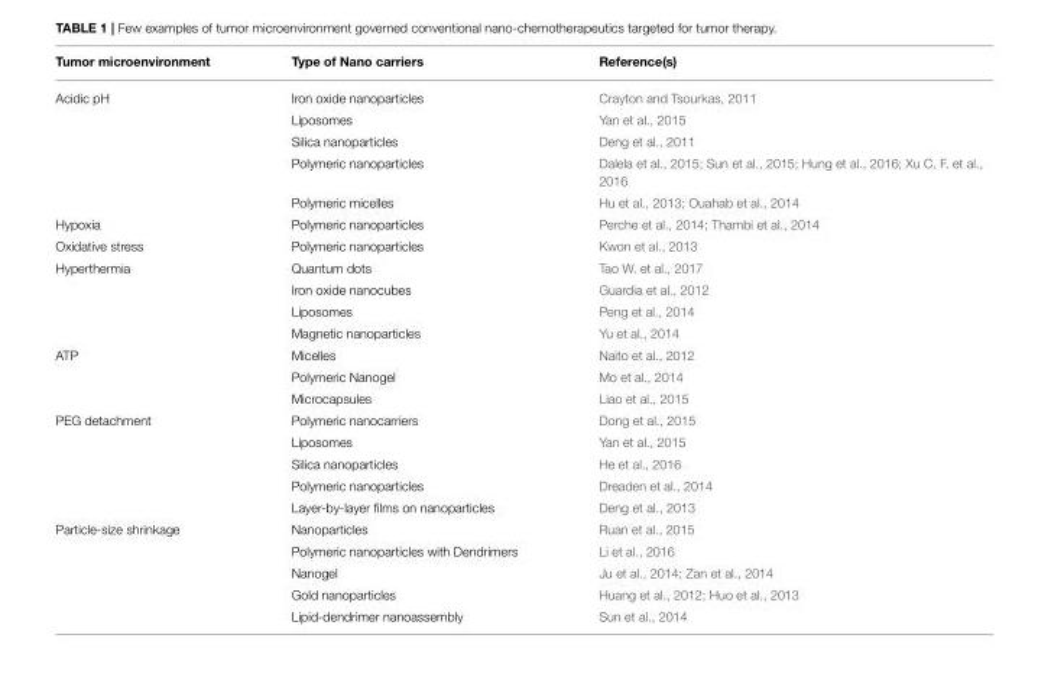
<table><thead><tr><td>Tumor microenvironment</td><td>Type of Nano carriers</td><td>Reference(s)</td></tr></thead><tbody><tr><td rowspan="5">Acidic pH</td><td>Iron oxide nanoparticles</td><td>Crayton and Tsourkas, 2011</td></tr><tr><td>Liposomes</td><td>Yan et al., 2015</td></tr><tr><td>Silica nanoparticles</td><td>Deng et al., 2011</td></tr><tr><td>Polymeric nanoparticles</td><td>Dalela et al., 2015; Sun et al., 2015; Hung et al., 2016; Xu C. F. et al., 2016</td></tr><tr><td>Polymeric micelles</td><td>Hu et al., 2013; Ouahab et al., 2014</td></tr><tr><td>Hypoxia</td><td>Polymeric nanoparticles</td><td>Perche et al., 2014; Thambi et al., 2014</td></tr><tr><td>Oxidative stress</td><td>Polymeric nanoparticles</td><td>Kwon et al., 2013</td></tr><tr><td rowspan="4">Hyperthermia</td><td>Quantum dots</td><td>Tao W. et al., 2017</td></tr><tr><td>Iron oxide nanocubes</td><td>Guardia et al., 2012</td></tr><tr><td>Liposomes</td><td>Peng et al., 2014</td></tr><tr><td>Magnetic nanoparticles</td><td>Yu et al., 2014</td></tr><tr><td rowspan="3">ATP</td><td>Micelles</td><td>Naito et al., 2012</td></tr><tr><td>Polymeric Nanogel</td><td>Mo et al., 2014</td></tr><tr><td>Microcapsules</td><td>Liao et al., 2015</td></tr><tr><td rowspan="5">PEG detachment</td><td>Polymeric nanocarriers</td><td>Dong et al., 2015</td></tr><tr><td>Liposomes</td><td>Yan et al., 2015</td></tr><tr><td>Silica nanoparticles</td><td>He et al., 2016</td></tr><tr><td>Polymeric nanoparticles</td><td>Dreaden et al., 2014</td></tr><tr><td>Layer-by-layer films on nanoparticles</td><td>Deng et al., 2013</td></tr><tr><td rowspan="5">Particle-size shrinkage</td><td>Nanoparticles</td><td>Ruan et al., 2015</td></tr><tr><td>Polymeric nanoparticles with Dendrimers</td><td>Li et al., 2016</td></tr><tr><td>Nanogel</td><td>Ju et al., 2014; Zan et al., 2014</td></tr><tr><td>Gold nanoparticles</td><td>Huang et al., 2012; Huo et al., 2013</td></tr><tr><td>Lipid-dendrimer nanoassembly</td><td>Sun et al., 2014</td></tr></tbody></table>